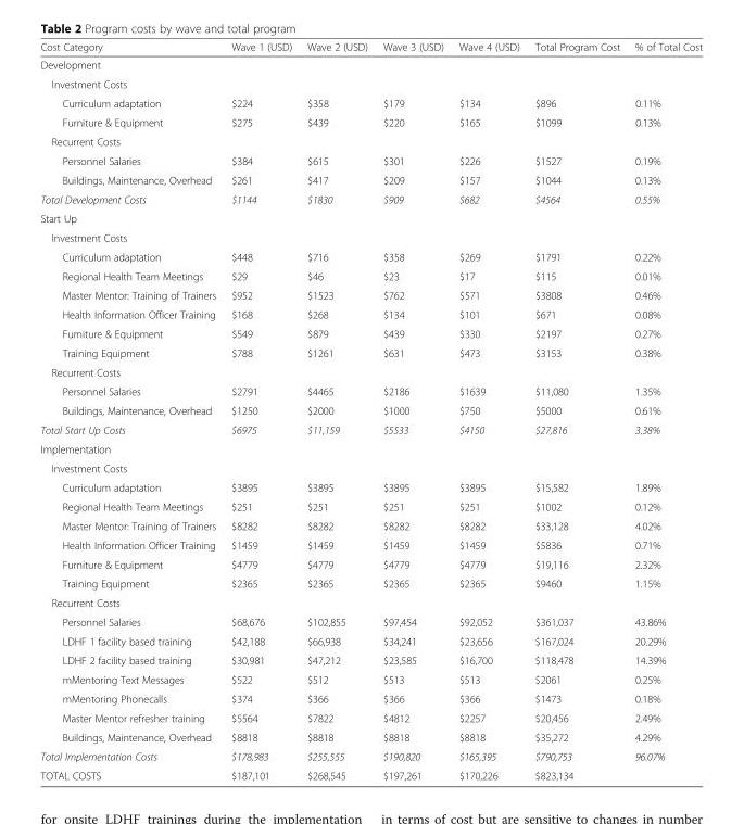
<table><thead><tr><td>Cost Category</td><td>Wave 1 (USD)</td><td>Wave 2 (USD)</td><td>Wave 3 (USD)</td><td>Wave 4 (USD)</td><td>Total Program Cost</td><td>% of Total Cost</td></tr></thead><tbody><tr><td colspan="7">Development</td></tr><tr><td colspan="7">Investment Costs</td></tr><tr><td>Curriculum adaptation</td><td>$224</td><td>$358</td><td>$179</td><td>$134</td><td>$896</td><td>0.11%</td></tr><tr><td>Furniture &amp; Equipment</td><td>$275</td><td>$439</td><td>$220</td><td>$165</td><td>$1099</td><td>0.13%</td></tr><tr><td colspan="7">Recurrent Costs</td></tr><tr><td>Personnel Salaries</td><td>$384</td><td>$615</td><td>$301</td><td>$226</td><td>$1527</td><td>0.19%</td></tr><tr><td>Buildings, Maintenance, Overhead</td><td>$261</td><td>$417</td><td>$209</td><td>$157</td><td>$1044</td><td>0.13%</td></tr><tr><td>Total Development Costs</td><td>$1144</td><td>$1830</td><td>$909</td><td>$682</td><td>$4564</td><td>0.55%</td></tr><tr><td colspan="7">Start Up</td></tr><tr><td colspan="7">Investment Costs</td></tr><tr><td>Curriculum adaptation</td><td>$448</td><td>$716</td><td>$358</td><td>$269</td><td>$1791</td><td>0.22%</td></tr><tr><td>Regional Health Team Meetings</td><td>$29</td><td>$46</td><td>$23</td><td>$17</td><td>$115</td><td>0.01%</td></tr><tr><td>Master Mentor: Training of Trainers</td><td>$952</td><td>$1523</td><td>$762</td><td>$571</td><td>$3808</td><td>0.46%</td></tr><tr><td>Health Information Officer Training</td><td>$168</td><td>$268</td><td>$134</td><td>$101</td><td>$671</td><td>0.08%</td></tr><tr><td>Furniture &amp; Equipment</td><td>$549</td><td>$879</td><td>$439</td><td>$330</td><td>$2197</td><td>0.27%</td></tr><tr><td>Training Equipment</td><td>$788</td><td>$1261</td><td>$631</td><td>$473</td><td>$3153</td><td>0.38%</td></tr><tr><td colspan="7">Recurrent Costs</td></tr><tr><td>Personnel Salaries</td><td>$2791</td><td>$4465</td><td>$2186</td><td>$1639</td><td>$11,080</td><td>1.35%</td></tr><tr><td>Buildings, Maintenance, Overhead</td><td>$1250</td><td>$2000</td><td>$1000</td><td>$750</td><td>$5000</td><td>0.61%</td></tr><tr><td>Total Start Up Costs</td><td>$6975</td><td>$11,159</td><td>$5533</td><td>$4150</td><td>$27,816</td><td>3.38%</td></tr><tr><td colspan="7">Implementation</td></tr><tr><td colspan="7">Investment Costs</td></tr><tr><td>Curriculum adaptation</td><td>$3895</td><td>$3895</td><td>$3895</td><td>$3895</td><td>$15,582</td><td>1.89%</td></tr><tr><td>Regional Health Team Meetings</td><td>$251</td><td>$251</td><td>$251</td><td>$251</td><td>$1002</td><td>0.12%</td></tr><tr><td>Master Mentor: Training of Trainers</td><td>$8282</td><td>$8282</td><td>$8282</td><td>$8282</td><td>$33,128</td><td>4.02%</td></tr><tr><td>Health Information Officer Training</td><td>$1459</td><td>$1459</td><td>$1459</td><td>$1459</td><td>$5836</td><td>0.71%</td></tr><tr><td>Furniture &amp; Equipment</td><td>$4779</td><td>$4779</td><td>$4779</td><td>$4779</td><td>$19,116</td><td>2.32%</td></tr><tr><td>Training Equipment</td><td>$2365</td><td>$2365</td><td>$2365</td><td>$2365</td><td>$9460</td><td>1.15%</td></tr><tr><td colspan="7">Recurrent Costs</td></tr><tr><td>Personnel Salaries</td><td>$68,676</td><td>$102,855</td><td>$97,454</td><td>$92,052</td><td>$361,037</td><td>43.86%</td></tr><tr><td>LDHF 1 facility based training</td><td>$42,188</td><td>$66,938</td><td>$34,241</td><td>$23,656</td><td>$167,024</td><td>20.29%</td></tr><tr><td>LDHF 2 facility based training</td><td>$30,981</td><td>$47,212</td><td>$23,585</td><td>$16,700</td><td>$118,478</td><td>14.39%</td></tr><tr><td>mMentoring Text Messages</td><td>$522</td><td>$512</td><td>$513</td><td>$513</td><td>$2061</td><td>0.25%</td></tr><tr><td>mMentoring Phonecalls</td><td>$374</td><td>$366</td><td>$366</td><td>$366</td><td>$1473</td><td>0.18%</td></tr><tr><td>Master Mentor refresher training</td><td>$5564</td><td>$7822</td><td>$4812</td><td>$2257</td><td>$20,456</td><td>2.49%</td></tr><tr><td>Buildings, Maintenance, Overhead</td><td>$8818</td><td>$8818</td><td>$8818</td><td>$8818</td><td>$35,272</td><td>4.29%</td></tr><tr><td>Total Implementation Costs</td><td>$178,983</td><td>$255,555</td><td>$190,820</td><td>$165,395</td><td>$790,753</td><td>96.07%</td></tr><tr><td>TOTAL COSTS</td><td>$187,101</td><td>$268,545</td><td>$197,261</td><td>$170,226</td><td>$823,134</td><td></td></tr></tbody></table>